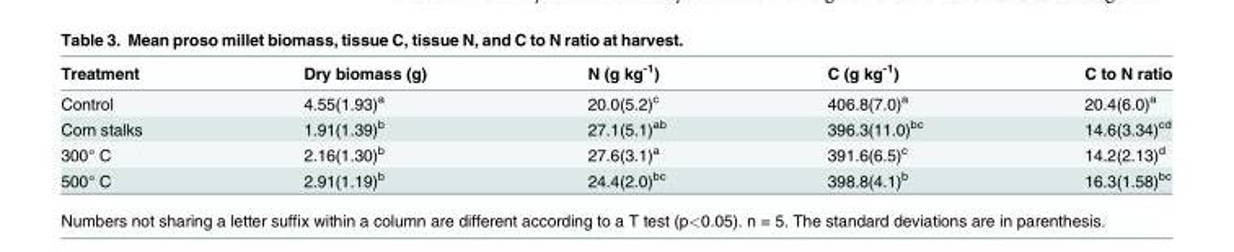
<table><thead><tr><td>Treatment</td><td>Dry biomass (g)</td><td>N (g kg<sup>-1</sup>)</td><td>C (g kg<sup>-1</sup>)</td><td>C to N ratio</td></tr></thead><tbody><tr><td>Control</td><td>4.55(1.93)<sup>a</sup></td><td>20.0(5.2)<sup>c</sup></td><td>406.8(7.0)<sup>a</sup></td><td>20.4(6.0)<sup>a</sup></td></tr><tr><td>Corn stalks</td><td>1.91(1.39)<sup>b</sup></td><td>27.1(5.1)<sup>ab</sup></td><td>396.3(11.0)<sup>bc</sup></td><td>14.6(3.34)<sup>cd</sup></td></tr><tr><td>300° C</td><td>2.16(1.30)<sup>b</sup></td><td>27.6(3.1)<sup>a</sup></td><td>391.6(6.5)<sup>c</sup></td><td>14.2(2.13)<sup>d</sup></td></tr><tr><td>500° C</td><td>2.91(1.19)<sup>b</sup></td><td>24.4(2.0)<sup>bc</sup></td><td>398.8(4.1)<sup>b</sup></td><td>16.3(1.58)<sup>bc</sup></td></tr></tbody></table>